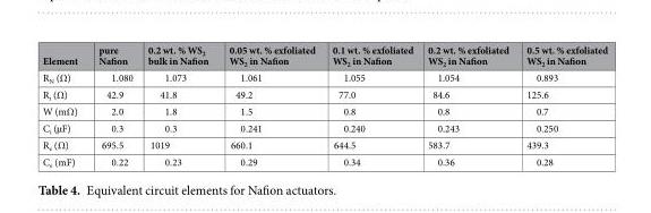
<table><thead><tr><td>Element</td><td>pure Nafion</td><td>0.2 wt. % WS<sub>2</sub> bulk in Nafion</td><td>0.05 wt. % exfoliated WS<sub>2</sub> in Nafion</td><td>0.1 wt. % exfoliated WS<sub>2</sub> in Nafion</td><td>0.2 wt. % exfoliated WS<sub>2</sub> in Nafion</td><td>0.5 wt. % exfoliated WS<sub>2</sub> in Nafion</td></tr></thead><tbody><tr><td>R<sub>N</sub> (Ω)</td><td>1.080</td><td>1.073</td><td>1.061</td><td>1.055</td><td>1.054</td><td>0.893</td></tr><tr><td>R<sub>i</sub> (Ω)</td><td>42.9</td><td>41.8</td><td>49.2</td><td>77.0</td><td>84.6</td><td>125.6</td></tr><tr><td>W (mΩ)</td><td>2.0</td><td>1.8</td><td>1.5</td><td>0.8</td><td>0.8</td><td>0.7</td></tr><tr><td>C<sub>i</sub> (µF)</td><td>0.3</td><td>0.3</td><td>0.241</td><td>0.240</td><td>0.243</td><td>0.250</td></tr><tr><td>R<sub>e</sub> (Ω)</td><td>695.5</td><td>1019</td><td>660.1</td><td>644.5</td><td>583.7</td><td>439.3</td></tr><tr><td>C<sub>e</sub> (mF)</td><td>0.22</td><td>0.23</td><td>0.29</td><td>0.34</td><td>0.36</td><td>0.28</td></tr></tbody></table>